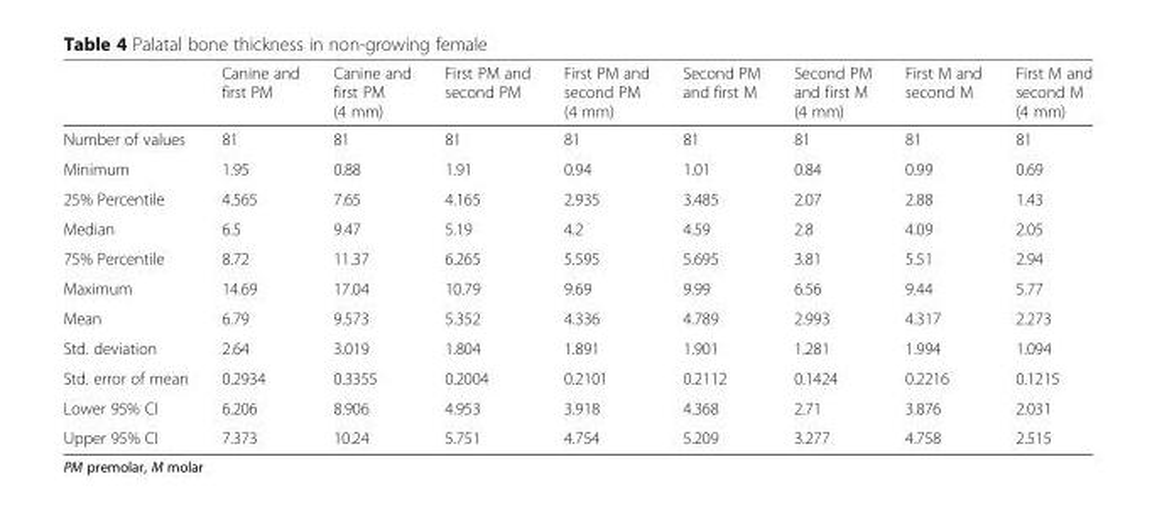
<table><thead><tr><td></td><td>Canine and first PM</td><td>Canine and first PM (4 mm)</td><td>First PM and second PM</td><td>First PM and second PM (4 mm)</td><td>Second PM and first M</td><td>Second PM and first M (4 mm)</td><td>First M and second M</td><td>First M and second M (4 mm)</td></tr></thead><tbody><tr><td>Number of values</td><td>81</td><td>81</td><td>81</td><td>81</td><td>81</td><td>81</td><td>81</td><td>81</td></tr><tr><td>Minimum</td><td>1.95</td><td>0.88</td><td>1.91</td><td>0.94</td><td>1.01</td><td>0.84</td><td>0.99</td><td>0.69</td></tr><tr><td>25% Percentile</td><td>4.565</td><td>7.65</td><td>4.165</td><td>2.935</td><td>3.485</td><td>2.07</td><td>2.88</td><td>1.43</td></tr><tr><td>Median</td><td>6.5</td><td>9.47</td><td>5.19</td><td>4.2</td><td>4.59</td><td>2.8</td><td>4.09</td><td>2.05</td></tr><tr><td>75% Percentile</td><td>8.72</td><td>11.37</td><td>6.265</td><td>5.595</td><td>5.695</td><td>3.81</td><td>5.51</td><td>2.94</td></tr><tr><td>Maximum</td><td>14.69</td><td>17.04</td><td>10.79</td><td>9.69</td><td>9.99</td><td>6.56</td><td>9.44</td><td>5.77</td></tr><tr><td>Mean</td><td>6.79</td><td>9.573</td><td>5.352</td><td>4.336</td><td>4.789</td><td>2.993</td><td>4.317</td><td>2.273</td></tr><tr><td>Std. deviation</td><td>2.64</td><td>3.019</td><td>1.804</td><td>1.891</td><td>1.901</td><td>1.281</td><td>1.994</td><td>1.094</td></tr><tr><td>Std. error of mean</td><td>0.2934</td><td>0.3355</td><td>0.2004</td><td>0.2101</td><td>0.2112</td><td>0.1424</td><td>0.2216</td><td>0.1215</td></tr><tr><td>Lower 95% CI</td><td>6.206</td><td>8.906</td><td>4.953</td><td>3.918</td><td>4.368</td><td>2.71</td><td>3.876</td><td>2.031</td></tr><tr><td>Upper 95% CI</td><td>7.373</td><td>10.24</td><td>5.751</td><td>4.754</td><td>5.209</td><td>3.277</td><td>4.758</td><td>2.515</td></tr></tbody></table>